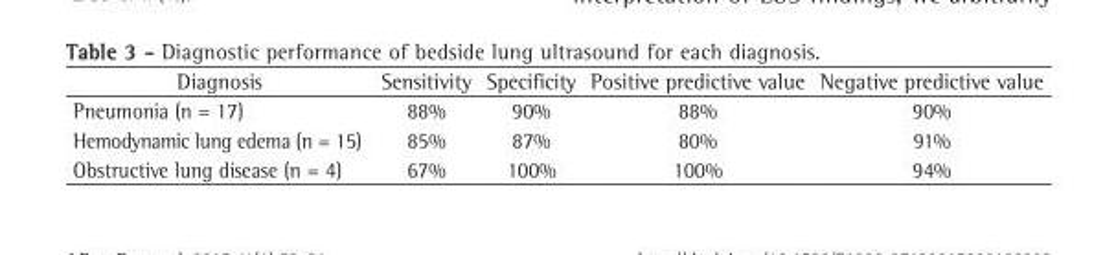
<table><thead><tr><td>Diagnosis</td><td>Sensitivity</td><td>Specificity</td><td>Positive predictive value</td><td>Negative predictive value</td></tr></thead><tbody><tr><td>Pneumonia (n = 17)</td><td>88%</td><td>90%</td><td>88%</td><td>90%</td></tr><tr><td>Hemodynamic lung edema (n = 15)</td><td>85%</td><td>87%</td><td>80%</td><td>91%</td></tr><tr><td>Obstructive lung disease (n = 4)</td><td>67%</td><td>100%</td><td>100%</td><td>94%</td></tr></tbody></table>